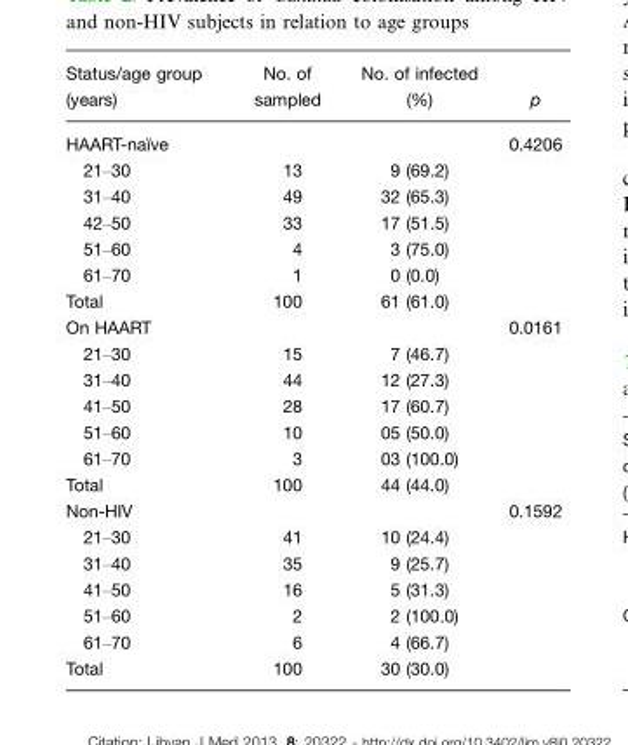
<table><thead><tr><td>Status/age group (years)</td><td>No. of sampled</td><td>No. of infected (%)</td><td>p</td></tr></thead><tbody><tr><td>HAART-naı¨ve</td><td></td><td></td><td>0.4206</td></tr><tr><td>21–30</td><td>13</td><td>9 (69.2)</td><td></td></tr><tr><td>31–40</td><td>49</td><td>32 (65.3)</td><td></td></tr><tr><td>42–50</td><td>33</td><td>17 (51.5)</td><td></td></tr><tr><td>51–60</td><td>4</td><td>3 (75.0)</td><td></td></tr><tr><td>61–70</td><td>1</td><td>0 (0.0)</td><td></td></tr><tr><td>Total</td><td>100</td><td>61 (61.0)</td><td></td></tr><tr><td>On HAART</td><td></td><td></td><td>0.0161</td></tr><tr><td>21–30</td><td>15</td><td>7 (46.7)</td><td></td></tr><tr><td>31–40</td><td>44</td><td>12 (27.3)</td><td></td></tr><tr><td>41–50</td><td>28</td><td>17 (60.7)</td><td></td></tr><tr><td>51–60</td><td>10</td><td>05 (50.0)</td><td></td></tr><tr><td>61–70</td><td>3</td><td>03 (100.0)</td><td></td></tr><tr><td>Total</td><td>100</td><td>44 (44.0)</td><td></td></tr><tr><td>Non-HIV</td><td></td><td></td><td>0.1592</td></tr><tr><td>21–30</td><td>41</td><td>10 (24.4)</td><td></td></tr><tr><td>31–40</td><td>35</td><td>9 (25.7)</td><td></td></tr><tr><td>41–50</td><td>16</td><td>5 (31.3)</td><td></td></tr><tr><td>51–60</td><td>2</td><td>2 (100.0)</td><td></td></tr><tr><td>61–70</td><td>6</td><td>4 (66.7)</td><td></td></tr><tr><td>Total</td><td>100</td><td>30 (30.0)</td><td></td></tr></tbody></table>